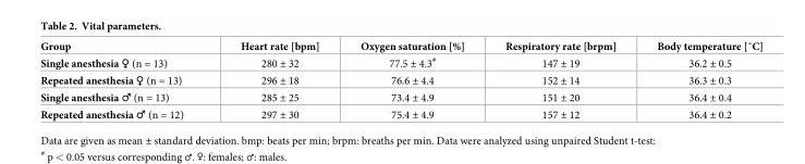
<table><thead><tr><td>Group</td><td>Heart rate [bpm]</td><td>Oxygen saturation [%]</td><td>Respiratory rate [brpm]</td><td>Body temperature [˚C]</td></tr></thead><tbody><tr><td>Single anesthesia ♀ (n = 13)</td><td>280 ± 32</td><td>77.5 ± 4.3<sup>#</sup></td><td>147 ± 19</td><td>36.2 ± 0.5</td></tr><tr><td>Repeated anesthesia ♀ (n = 13)</td><td>296 ± 18</td><td>76.6 ± 4.4</td><td>152 ± 14</td><td>36.3 ± 0.3</td></tr><tr><td>Single anesthesia ♂ (n = 13)</td><td>285 ± 25</td><td>73.4 ± 4.9</td><td>151 ± 20</td><td>36.4 ± 0.4</td></tr><tr><td>Repeated anesthesia ♂ (n = 12)</td><td>297 ± 30</td><td>75.4 ± 4.9</td><td>157 ± 12</td><td>36.4 ± 0.2</td></tr></tbody></table>